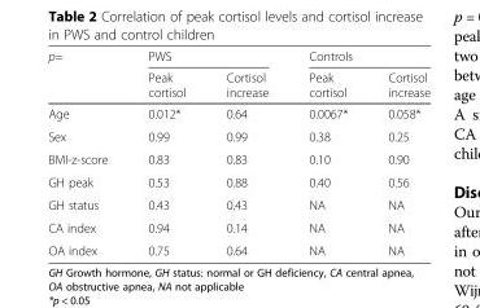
<table><thead><tr><td rowspan="2">p=</td><td colspan="2">PWS</td><td colspan="2">Controls</td></tr><tr><td>Peak cortisol</td><td>Cortisol increase</td><td>Peak cortisol</td><td>Cortisol increase</td></tr></thead><tbody><tr><td>Age</td><td>0.012*</td><td>0.64</td><td>0.0067*</td><td>0.058*</td></tr><tr><td>Sex</td><td>0.99</td><td>0.99</td><td>0.38</td><td>0.25</td></tr><tr><td>BMI-z-score</td><td>0.83</td><td>0.83</td><td>0.10</td><td>0.90</td></tr><tr><td>GH peak</td><td>0.53</td><td>0.88</td><td>0.40</td><td>0.56</td></tr><tr><td>GH status</td><td>0.43</td><td>0.43</td><td>NA</td><td>NA</td></tr><tr><td>CA index</td><td>0.94</td><td>0.14</td><td>NA</td><td>NA</td></tr><tr><td>OA index</td><td>0.75</td><td>0.64</td><td>NA</td><td>NA</td></tr></tbody></table>